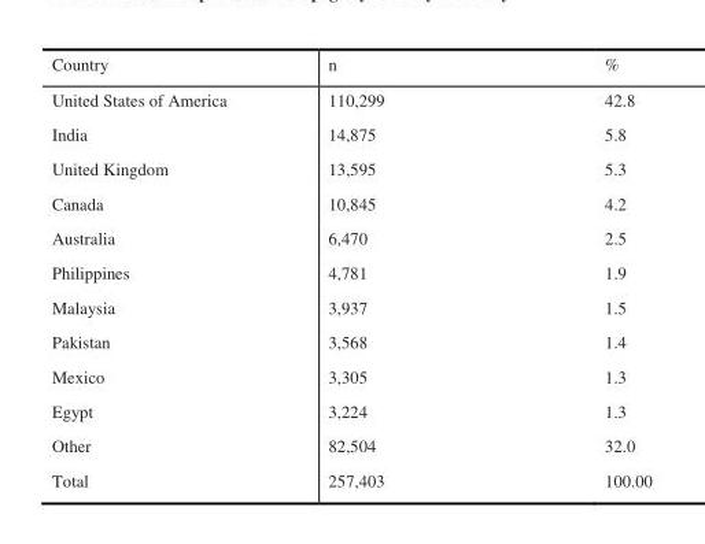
<table><thead><tr><td>Country</td><td>n</td><td>%</td></tr></thead><tbody><tr><td>United States of America</td><td>110,299</td><td>42.8</td></tr><tr><td>India</td><td>14,875</td><td>5.8</td></tr><tr><td>United Kingdom</td><td>13,595</td><td>5.3</td></tr><tr><td>Canada</td><td>10,845</td><td>4.2</td></tr><tr><td>Australia</td><td>6,470</td><td>2.5</td></tr><tr><td>Philippines</td><td>4,781</td><td>1.9</td></tr><tr><td>Malaysia</td><td>3,937</td><td>1.5</td></tr><tr><td>Pakistan</td><td>3,568</td><td>1.4</td></tr><tr><td>Mexico</td><td>3,305</td><td>1.3</td></tr><tr><td>Egypt</td><td>3,224</td><td>1.3</td></tr><tr><td>Other</td><td>82,504</td><td>32.0</td></tr><tr><td>Total</td><td>257,403</td><td>100.00</td></tr></tbody></table>